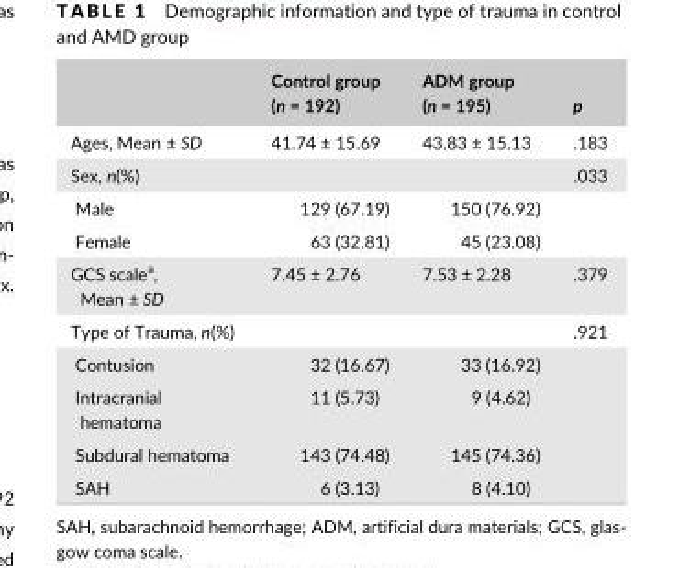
<table><thead><tr><td></td><td>Control group (n = 192)</td><td>ADM group (n = 195)</td><td>p</td></tr></thead><tbody><tr><td>Ages, Mean ± SD</td><td>41.74 ± 15.69</td><td>43.83 ± 15.13</td><td>.183</td></tr><tr><td colspan="3">Sex, n(%)</td><td>.033</td></tr><tr><td>Male</td><td>129 (67.19)</td><td>150 (76.92)</td><td></td></tr><tr><td>Female</td><td>63 (32.81)</td><td>45 (23.08)</td><td></td></tr><tr><td>GCS scale<sup>a</sup>, Mean ± SD</td><td>7.45 ± 2.76</td><td>7.53 ± 2.28</td><td>.379</td></tr><tr><td colspan="3">Type of Trauma, n(%)</td><td>.921</td></tr><tr><td>Contusion</td><td>32 (16.67)</td><td>33 (16.92)</td><td></td></tr><tr><td>Intracranial hematoma</td><td>11 (5.73)</td><td>9 (4.62)</td><td></td></tr><tr><td>Subdural hematoma</td><td>143 (74.48)</td><td>145 (74.36)</td><td></td></tr><tr><td>SAH</td><td>6 (3.13)</td><td>8 (4.10)</td><td></td></tr></tbody></table>